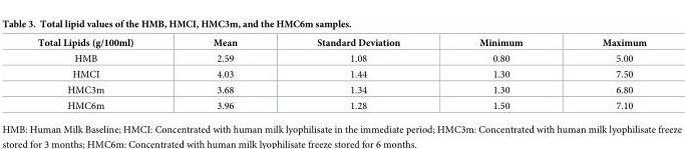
<table><thead><tr><td>Total Lipids (g/100ml)</td><td>Mean</td><td>Standard Deviation</td><td>Minimum</td><td>Maximum</td></tr></thead><tbody><tr><td>HMB</td><td>2.59</td><td>1.08</td><td>0.80</td><td>5.00</td></tr><tr><td>HMCI</td><td>4.03</td><td>1.44</td><td>1.30</td><td>7.50</td></tr><tr><td>HMC3m</td><td>3.68</td><td>1.34</td><td>1.30</td><td>6.80</td></tr><tr><td>HMC6m</td><td>3.96</td><td>1.28</td><td>1.50</td><td>7.10</td></tr></tbody></table>